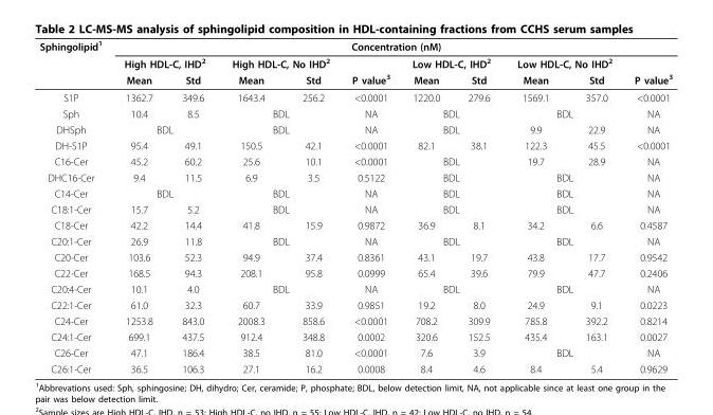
<table><thead><tr><td rowspan="3">Sphingolipid<sup>1</sup></td><td colspan="10">Concentration (nM)</td></tr><tr><td colspan="2">High HDL-C, IHD<sup>2</sup></td><td colspan="2">High HDL-C, No IHD<sup>2</sup></td><td rowspan="2">P value<sup>3</sup></td><td colspan="2">Low HDL-C, IHD<sup>2</sup></td><td colspan="2">Low HDL-C, No IHD<sup>2</sup></td><td rowspan="2">P value<sup>3</sup></td></tr><tr><td>Mean</td><td>Std</td><td>Mean</td><td>Std</td><td>Mean</td><td>Std</td><td>Mean</td><td>Std</td></tr></thead><tbody><tr><td>S1P</td><td>1362.7</td><td>349.6</td><td>1643.4</td><td>256.2</td><td>&lt;0.0001</td><td>1220.0</td><td>279.6</td><td>1569.1</td><td>357.0</td><td>&lt;0.0001</td></tr><tr><td>Sph</td><td>10.4</td><td>8.5</td><td colspan="2">BDL</td><td>NA</td><td colspan="2">BDL</td><td colspan="2">BDL</td><td>NA</td></tr><tr><td>DHSph</td><td colspan="2">BDL</td><td colspan="2">BDL</td><td>NA</td><td colspan="2">BDL</td><td>9.9</td><td>22.9</td><td>NA</td></tr><tr><td>DH-S1P</td><td>95.4</td><td>49.1</td><td>150.5</td><td>42.1</td><td>&lt;0.0001</td><td>82.1</td><td>38.1</td><td>122.3</td><td>45.5</td><td>&lt;0.0001</td></tr><tr><td>C16-Cer</td><td>45.2</td><td>60.2</td><td>25.6</td><td>10.1</td><td>&lt;0.0001</td><td colspan="2">BDL</td><td>19.7</td><td>28.9</td><td>NA</td></tr><tr><td>DHC16-Cer</td><td>9.4</td><td>11.5</td><td>6.9</td><td>3.5</td><td>0.5122</td><td colspan="2">BDL</td><td colspan="2">BDL</td><td>NA</td></tr><tr><td>C14-Cer</td><td colspan="2">BDL</td><td colspan="2">BDL</td><td>NA</td><td colspan="2">BDL</td><td colspan="2">BDL</td><td>NA</td></tr><tr><td>C18:1-Cer</td><td>15.7</td><td>5.2</td><td colspan="2">BDL</td><td>NA</td><td colspan="2">BDL</td><td colspan="2">BDL</td><td>NA</td></tr><tr><td>C18-Cer</td><td>42.2</td><td>14.4</td><td>41.8</td><td>15.9</td><td>0.9872</td><td>36.9</td><td>8.1</td><td>34.2</td><td>6.6</td><td>0.4587</td></tr><tr><td>C20:1-Cer</td><td>26.9</td><td>11.8</td><td colspan="2">BDL</td><td>NA</td><td colspan="2">BDL</td><td colspan="2">BDL</td><td>NA</td></tr><tr><td>C20-Cer</td><td>103.6</td><td>52.3</td><td>94.9</td><td>37.4</td><td>0.8361</td><td>43.1</td><td>19.7</td><td>43.8</td><td>17.7</td><td>0.9542</td></tr><tr><td>C22-Cer</td><td>168.5</td><td>94.3</td><td>208.1</td><td>95.8</td><td>0.0999</td><td>65.4</td><td>39.6</td><td>79.9</td><td>47.7</td><td>0.2406</td></tr><tr><td>C20:4-Cer</td><td>10.1</td><td>4.0</td><td colspan="2">BDL</td><td>NA</td><td colspan="2">BDL</td><td colspan="2">BDL</td><td>NA</td></tr><tr><td>C22:1-Cer</td><td>61.0</td><td>32.3</td><td>60.7</td><td>33.9</td><td>0.9851</td><td>19.2</td><td>8.0</td><td>24.9</td><td>9.1</td><td>0.0223</td></tr><tr><td>C24-Cer</td><td>1253.8</td><td>843.0</td><td>2008.3</td><td>858.6</td><td>&lt;0.0001</td><td>708.2</td><td>309.9</td><td>785.8</td><td>392.2</td><td>0.8214</td></tr><tr><td>C24:1-Cer</td><td>699.1</td><td>437.5</td><td>912.4</td><td>348.8</td><td>0.0002</td><td>320.6</td><td>152.5</td><td>435.4</td><td>163.1</td><td>0.0027</td></tr><tr><td>C26-Cer</td><td>47.1</td><td>186.4</td><td>38.5</td><td>81.0</td><td>&lt;0.0001</td><td>7.6</td><td>3.9</td><td colspan="2">BDL</td><td>NA</td></tr><tr><td>C26:1-Cer</td><td>36.5</td><td>106.3</td><td>27.1</td><td>16.2</td><td>0.0008</td><td>8.4</td><td>4.6</td><td>8.4</td><td>5.4</td><td>0.9629</td></tr></tbody></table>